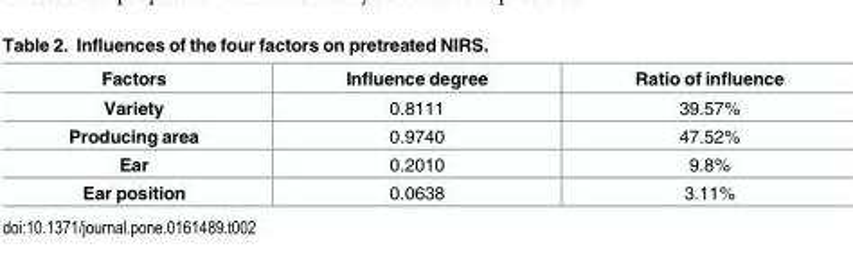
<table><thead><tr><td>Factors</td><td>Influence degree</td><td>Ratio of influence</td></tr></thead><tbody><tr><td>Variety</td><td>0.8111</td><td>39.57%</td></tr><tr><td>Producing area</td><td>0.9740</td><td>47.52%</td></tr><tr><td>Ear</td><td>0.2010</td><td>9.8%</td></tr><tr><td>Ear position</td><td>0.0638</td><td>3.11%</td></tr></tbody></table>